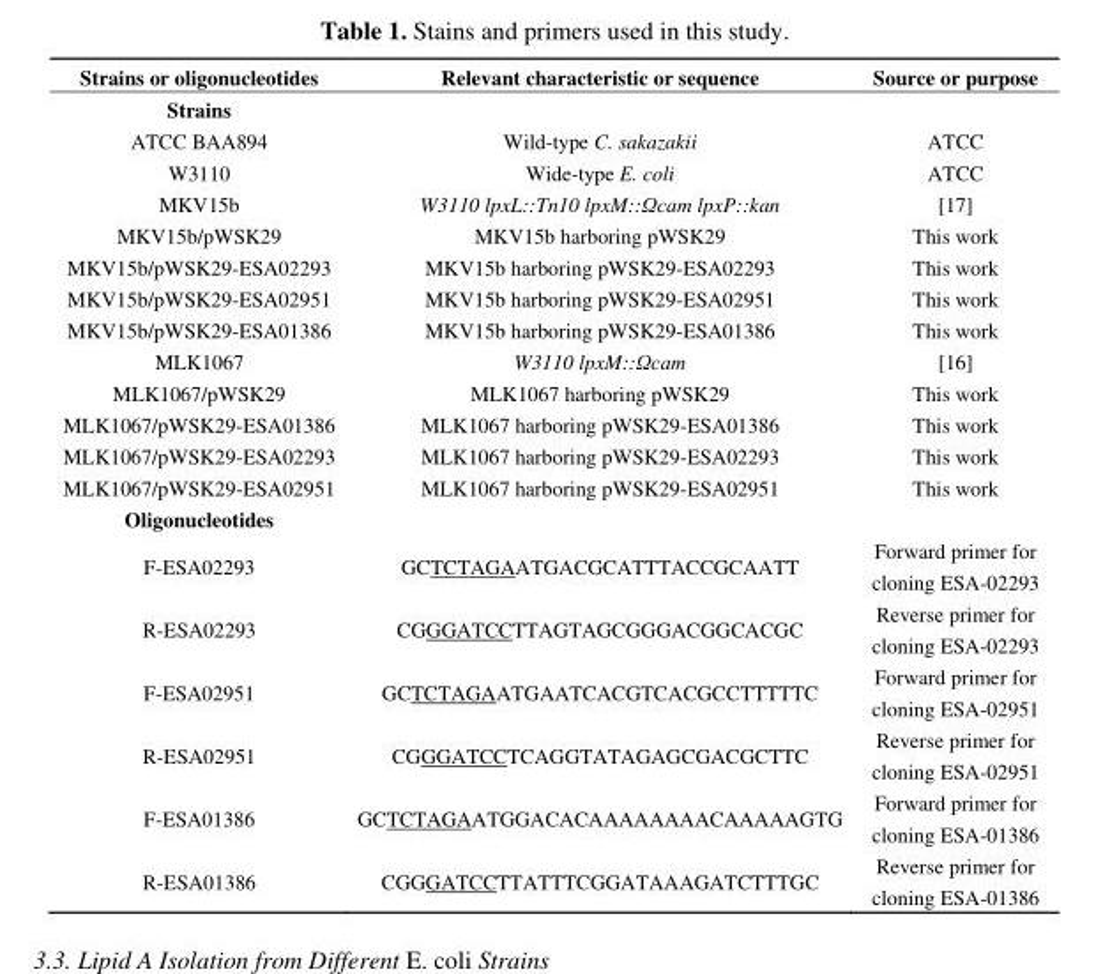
<table><thead><tr><td>Strains or oligonucleotides</td><td>Relevant characteristic or sequence</td><td>Source or purpose</td></tr></thead><tbody><tr><td colspan="3">Strains</td></tr><tr><td>ATCC BAA894</td><td>Wild-type C. sakazakii</td><td>ATCC</td></tr><tr><td>W3110</td><td>Wide-type E. coli</td><td>ATCC</td></tr><tr><td>MKV15b</td><td>W3110 lpxL::Tn10 lpxM::Ωcam lpxP::kan</td><td>[17]</td></tr><tr><td>MKV15b/pWSK29</td><td>MKV15b harboring pWSK29</td><td>This work</td></tr><tr><td>MKV15b/pWSK29-ESA02293</td><td>MKV15b harboring pWSK29-ESA02293</td><td>This work</td></tr><tr><td>MKV15b/pWSK29-ESA02951</td><td>MKV15b harboring pWSK29-ESA02951</td><td>This work</td></tr><tr><td>MKV15b/pWSK29-ESA01386</td><td>MKV15b harboring pWSK29-ESA01386</td><td>This work</td></tr><tr><td>MLK1067</td><td>W3110 lpxM::Ωcam</td><td>[16]</td></tr><tr><td>MLK1067/pWSK29</td><td>MLK1067 harboring pWSK29</td><td>This work</td></tr><tr><td>MLK1067/pWSK29-ESA01386</td><td>MLK1067 harboring pWSK29-ESA01386</td><td>This work</td></tr><tr><td>MLK1067/pWSK29-ESA02293</td><td>MLK1067 harboring pWSK29-ESA02293</td><td>This work</td></tr><tr><td>MLK1067/pWSK29-ESA02951</td><td>MLK1067 harboring pWSK29-ESA02951</td><td>This work</td></tr><tr><td colspan="3">Oligonucleotides</td></tr><tr><td>F-ESA02293</td><td>GCTCTAGAATGACGCATTTACCGCAATT</td><td>Forward primer for cloning ESA-02293</td></tr><tr><td>R-ESA02293</td><td>CGGGATCCTTAGTAGCGGGACGGCACGC</td><td>Reverse primer for cloning ESA-02293</td></tr><tr><td>F-ESA02951</td><td>GCTCTAGAATGAATCACGTCACGCCTTTTTC</td><td>Forward primer for cloning ESA-02951</td></tr><tr><td>R-ESA02951</td><td>CGGGATCCTCAGGTATAGAGCGACGCTTC</td><td>Reverse primer for cloning ESA-02951</td></tr><tr><td>F-ESA01386</td><td>GCTCTAGAATGGACACAAAAAAAACAAAAAGTG</td><td>Forward primer for cloning ESA-01386</td></tr><tr><td>R-ESA01386</td><td>CGGGATCCTTATTTCGGATAAAGATCTTTGC</td><td>Reverse primer for cloning ESA-01386</td></tr></tbody></table>